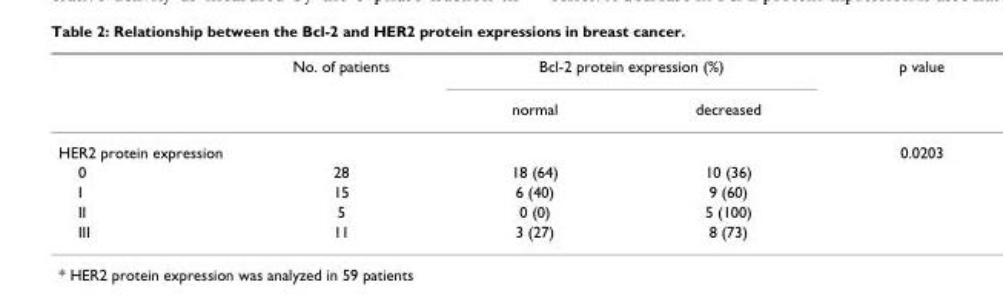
<table><thead><tr><td rowspan="2"></td><td rowspan="2">No. of patients</td><td colspan="2">Bcl-2 protein expression (%)</td><td rowspan="2">p value</td></tr><tr><td>normal</td><td>decreased</td></tr></thead><tbody><tr><td>HER2 protein expression</td><td></td><td></td><td></td><td>0.0203</td></tr><tr><td>0</td><td>28</td><td>18 (64)</td><td>10 (36)</td><td></td></tr><tr><td>I</td><td>15</td><td>6 (40)</td><td>9 (60)</td><td></td></tr><tr><td>II</td><td>5</td><td>0 (0)</td><td>5 (100)</td><td></td></tr><tr><td>III</td><td>11</td><td>3 (27)</td><td>8 (73)</td><td></td></tr></tbody></table>